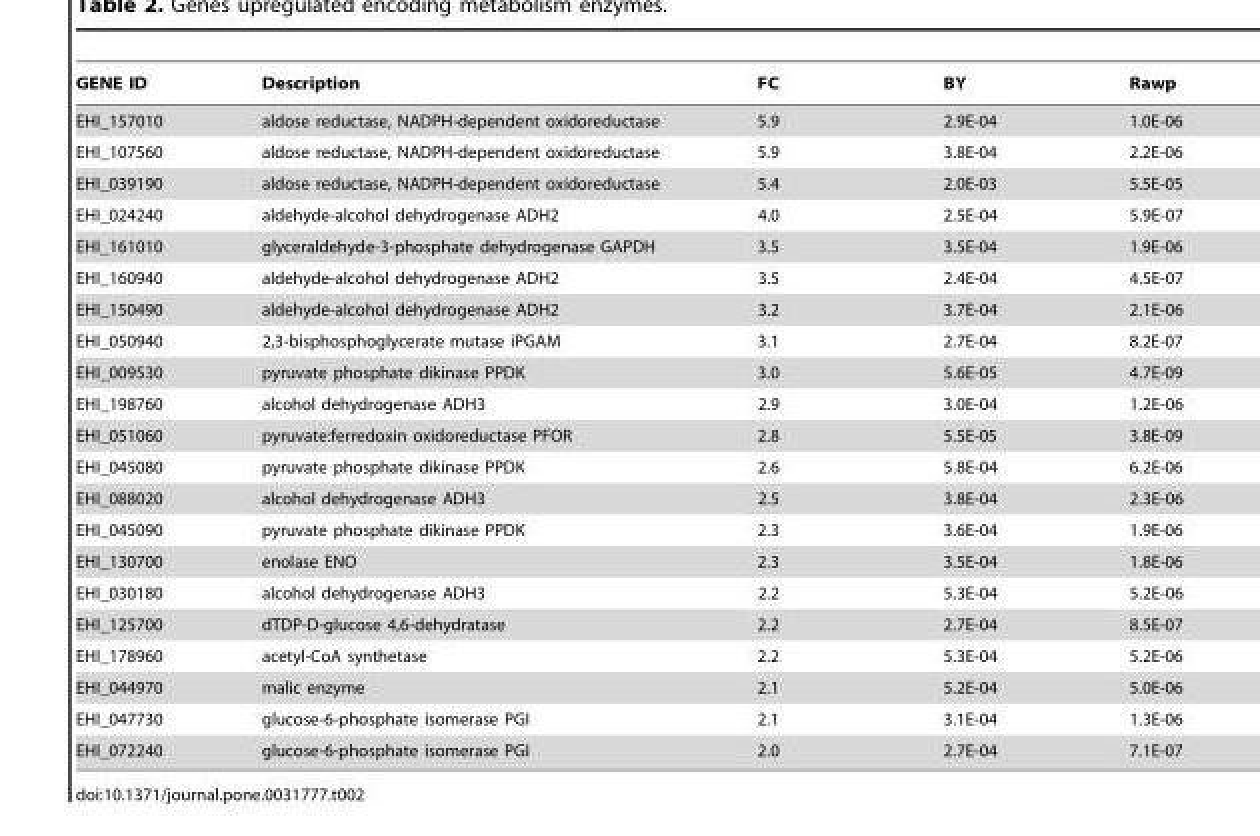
<table><thead><tr><td>GENE ID</td><td>Description</td><td>FC</td><td>BY</td><td>Rawp</td></tr></thead><tbody><tr><td>EHI_157010</td><td>aldose reductase, NADPH-dependent oxidoreductase</td><td>5.9</td><td>2.9E-04</td><td>1.0E-06</td></tr><tr><td>EHI_107560</td><td>aldose reductase, NADPH-dependent oxidoreductase</td><td>5.9</td><td>3.8E-04</td><td>2.2E-06</td></tr><tr><td>EHI_039190</td><td>aldose reductase, NADPH-dependent oxidoreductase</td><td>5.4</td><td>2.0E-03</td><td>5.5E-05</td></tr><tr><td>EHI_024240</td><td>aldehyde-alcohol dehydrogenase ADH2</td><td>4.0</td><td>2.5E-04</td><td>5.9E-07</td></tr><tr><td>EHI_161010</td><td>glyceraldehyde-3-phosphate dehydrogenase GAPDH</td><td>3.5</td><td>3.5E-04</td><td>1.9E-06</td></tr><tr><td>EHI_160940</td><td>aldehyde-alcohol dehydrogenase ADH2</td><td>3.5</td><td>2.4E-04</td><td>4.5E-07</td></tr><tr><td>EHI_150490</td><td>aldehyde-alcohol dehydrogenase ADH2</td><td>3.2</td><td>3.7E-04</td><td>2.1E-06</td></tr><tr><td>EHI_050940</td><td>2,3-bisphosphoglycerate mutase iPGAM</td><td>3.1</td><td>2.7E-04</td><td>8.2E-07</td></tr><tr><td>EHI_009530</td><td>pyruvate phosphate dikinase PPDK</td><td>3.0</td><td>5.6E-05</td><td>4.7E-09</td></tr><tr><td>EHI_198760</td><td>alcohol dehydrogenase ADH3</td><td>2.9</td><td>3.0E-04</td><td>1.2E-06</td></tr><tr><td>EHI_051060</td><td>pyruvate:ferredoxin oxidoreductase PFOR</td><td>2.8</td><td>5.5E-05</td><td>3.8E-09</td></tr><tr><td>EHI_045080</td><td>pyruvate phosphate dikinase PPDK</td><td>2.6</td><td>5.8E-04</td><td>6.2E-06</td></tr><tr><td>EHI_088020</td><td>alcohol dehydrogenase ADH3</td><td>2.5</td><td>3.8E-04</td><td>2.3E-06</td></tr><tr><td>EHI_045090</td><td>pyruvate phosphate dikinase PPDK</td><td>2.3</td><td>3.6E-04</td><td>1.9E-06</td></tr><tr><td>EHI_130700</td><td>enolase ENO</td><td>2.3</td><td>3.5E-04</td><td>1.8E-06</td></tr><tr><td>EHI_030180</td><td>alcohol dehydrogenase ADH3</td><td>2.2</td><td>5.3E-04</td><td>5.2E-06</td></tr><tr><td>EHI_125700</td><td>dTDP-D-glucose 4,6-dehydratase</td><td>2.2</td><td>2.7E-04</td><td>8.5E-07</td></tr><tr><td>EHI_178960</td><td>acetyl-CoA synthetase</td><td>2.2</td><td>5.3E-04</td><td>5.2E-06</td></tr><tr><td>EHI_044970</td><td>malic enzyme</td><td>2.1</td><td>5.2E-04</td><td>5.0E-06</td></tr><tr><td>EHI_047730</td><td>glucose-6-phosphate isomerase PGI</td><td>2.1</td><td>3.1E-04</td><td>1.3E-06</td></tr><tr><td>EHI_072240</td><td>glucose-6-phosphate isomerase PGI</td><td>2.0</td><td>2.7E-04</td><td>7.1E-07</td></tr></tbody></table>